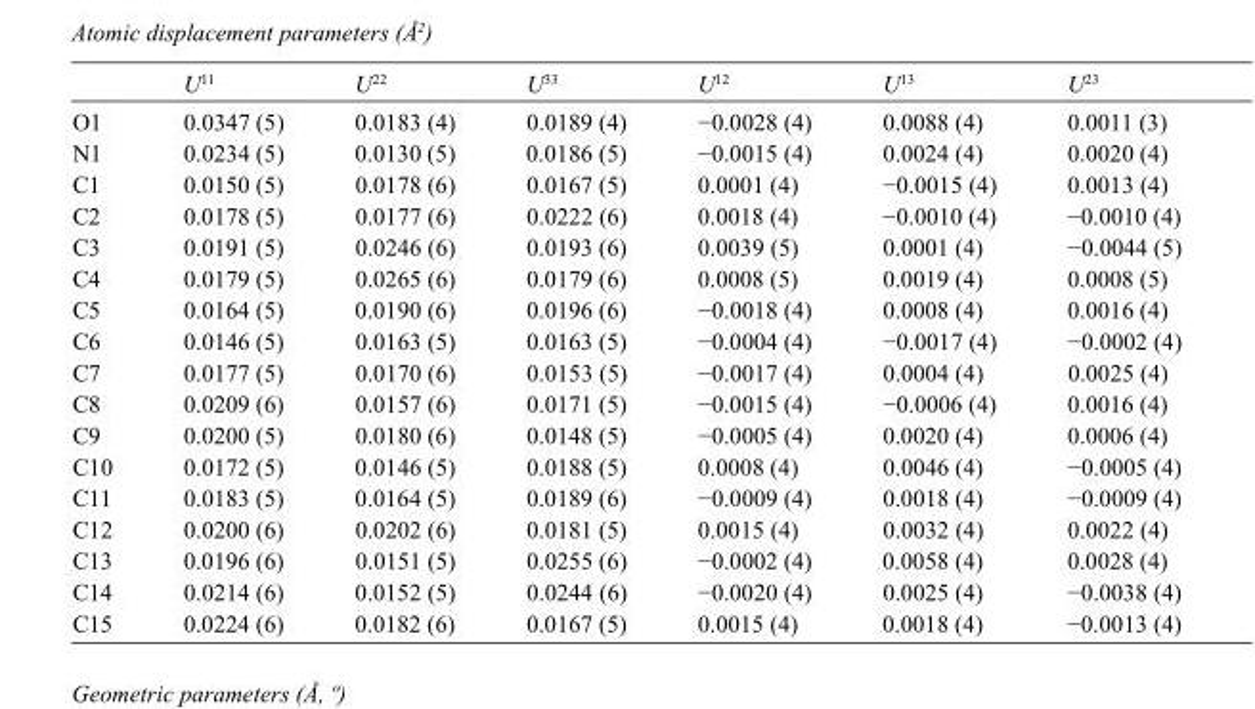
<table><thead><tr><td></td><td>U<sup>11</sup></td><td>U<sup>22</sup></td><td>U<sup>33</sup></td><td>U<sup>12</sup></td><td>U<sup>13</sup></td><td>U<sup>23</sup></td></tr></thead><tbody><tr><td>O1</td><td>0.0347 (5)</td><td>0.0183 (4)</td><td>0.0189 (4)</td><td>−0.0028 (4)</td><td>0.0088 (4)</td><td>0.0011 (3)</td></tr><tr><td>N1</td><td>0.0234 (5)</td><td>0.0130 (5)</td><td>0.0186 (5)</td><td>−0.0015 (4)</td><td>0.0024 (4)</td><td>0.0020 (4)</td></tr><tr><td>C1</td><td>0.0150 (5)</td><td>0.0178 (6)</td><td>0.0167 (5)</td><td>0.0001 (4)</td><td>−0.0015 (4)</td><td>0.0013 (4)</td></tr><tr><td>C2</td><td>0.0178 (5)</td><td>0.0177 (6)</td><td>0.0222 (6)</td><td>0.0018 (4)</td><td>−0.0010 (4)</td><td>−0.0010 (4)</td></tr><tr><td>C3</td><td>0.0191 (5)</td><td>0.0246 (6)</td><td>0.0193 (6)</td><td>0.0039 (5)</td><td>0.0001 (4)</td><td>−0.0044 (5)</td></tr><tr><td>C4</td><td>0.0179 (5)</td><td>0.0265 (6)</td><td>0.0179 (6)</td><td>0.0008 (5)</td><td>0.0019 (4)</td><td>0.0008 (5)</td></tr><tr><td>C5</td><td>0.0164 (5)</td><td>0.0190 (6)</td><td>0.0196 (6)</td><td>−0.0018 (4)</td><td>0.0008 (4)</td><td>0.0016 (4)</td></tr><tr><td>C6</td><td>0.0146 (5)</td><td>0.0163 (5)</td><td>0.0163 (5)</td><td>−0.0004 (4)</td><td>−0.0017 (4)</td><td>−0.0002 (4)</td></tr><tr><td>C7</td><td>0.0177 (5)</td><td>0.0170 (6)</td><td>0.0153 (5)</td><td>−0.0017 (4)</td><td>0.0004 (4)</td><td>0.0025 (4)</td></tr><tr><td>C8</td><td>0.0209 (6)</td><td>0.0157 (6)</td><td>0.0171 (5)</td><td>−0.0015 (4)</td><td>−0.0006 (4)</td><td>0.0016 (4)</td></tr><tr><td>C9</td><td>0.0200 (5)</td><td>0.0180 (6)</td><td>0.0148 (5)</td><td>−0.0005 (4)</td><td>0.0020 (4)</td><td>0.0006 (4)</td></tr><tr><td>C10</td><td>0.0172 (5)</td><td>0.0146 (5)</td><td>0.0188 (5)</td><td>0.0008 (4)</td><td>0.0046 (4)</td><td>−0.0005 (4)</td></tr><tr><td>C11</td><td>0.0183 (5)</td><td>0.0164 (5)</td><td>0.0189 (6)</td><td>−0.0009 (4)</td><td>0.0018 (4)</td><td>−0.0009 (4)</td></tr><tr><td>C12</td><td>0.0200 (6)</td><td>0.0202 (6)</td><td>0.0181 (5)</td><td>0.0015 (4)</td><td>0.0032 (4)</td><td>0.0022 (4)</td></tr><tr><td>C13</td><td>0.0196 (6)</td><td>0.0151 (5)</td><td>0.0255 (6)</td><td>−0.0002 (4)</td><td>0.0058 (4)</td><td>0.0028 (4)</td></tr><tr><td>C14</td><td>0.0214 (6)</td><td>0.0152 (5)</td><td>0.0244 (6)</td><td>−0.0020 (4)</td><td>0.0025 (4)</td><td>−0.0038 (4)</td></tr><tr><td>C15</td><td>0.0224 (6)</td><td>0.0182 (6)</td><td>0.0167 (5)</td><td>0.0015 (4)</td><td>0.0018 (4)</td><td>−0.0013 (4)</td></tr></tbody></table>